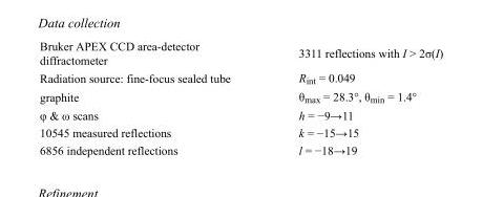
<table><tbody><tr><td>Bruker APEX CCD area-detector diffractometer</td><td>3311 reflections with I &gt; 2σ(I)</td></tr><tr><td>Radiation source: fine-focus sealed tube</td><td>R<sub>int</sub> = 0.049</td></tr><tr><td>graphite</td><td>θ<sub>max</sub> = 28.3°, θ<sub>min</sub> = 1.4°</td></tr><tr><td>φ &amp; ω scans</td><td>h = −9→11</td></tr><tr><td>10545 measured reflections</td><td>k = −15→15</td></tr><tr><td>6856 independent reflections</td><td>l = −18→19</td></tr></tbody></table>